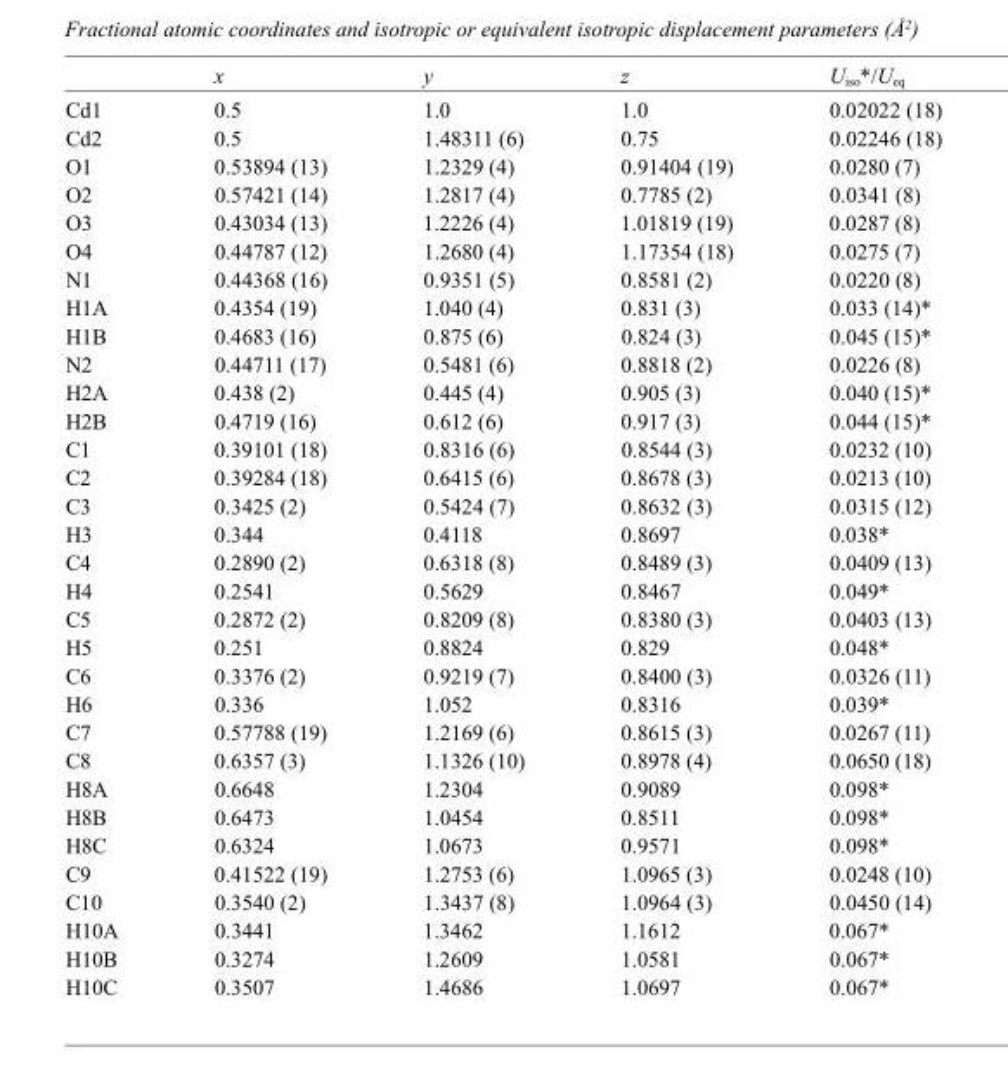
<table><thead><tr><td></td><td>x</td><td>y</td><td>z</td><td>U<sub>iso</sub>*/U<sub>eq</sub></td></tr></thead><tbody><tr><td>Cd1</td><td>0.5</td><td>1.0</td><td>1.0</td><td>0.02022 (18)</td></tr><tr><td>Cd2</td><td>0.5</td><td>1.48311 (6)</td><td>0.75</td><td>0.02246 (18)</td></tr><tr><td>O1</td><td>0.53894 (13)</td><td>1.2329 (4)</td><td>0.91404 (19)</td><td>0.0280 (7)</td></tr><tr><td>O2</td><td>0.57421 (14)</td><td>1.2817 (4)</td><td>0.7785 (2)</td><td>0.0341 (8)</td></tr><tr><td>O3</td><td>0.43034 (13)</td><td>1.2226 (4)</td><td>1.01819 (19)</td><td>0.0287 (8)</td></tr><tr><td>O4</td><td>0.44787 (12)</td><td>1.2680 (4)</td><td>1.17354 (18)</td><td>0.0275 (7)</td></tr><tr><td>N1</td><td>0.44368 (16)</td><td>0.9351 (5)</td><td>0.8581 (2)</td><td>0.0220 (8)</td></tr><tr><td>H1A</td><td>0.4354 (19)</td><td>1.040 (4)</td><td>0.831 (3)</td><td>0.033 (14)*</td></tr><tr><td>H1B</td><td>0.4683 (16)</td><td>0.875 (6)</td><td>0.824 (3)</td><td>0.045 (15)*</td></tr><tr><td>N2</td><td>0.44711 (17)</td><td>0.5481 (6)</td><td>0.8818 (2)</td><td>0.0226 (8)</td></tr><tr><td>H2A</td><td>0.438 (2)</td><td>0.445 (4)</td><td>0.905 (3)</td><td>0.040 (15)*</td></tr><tr><td>H2B</td><td>0.4719 (16)</td><td>0.612 (6)</td><td>0.917 (3)</td><td>0.044 (15)*</td></tr><tr><td>C1</td><td>0.39101 (18)</td><td>0.8316 (6)</td><td>0.8544 (3)</td><td>0.0232 (10)</td></tr><tr><td>C2</td><td>0.39284 (18)</td><td>0.6415 (6)</td><td>0.8678 (3)</td><td>0.0213 (10)</td></tr><tr><td>C3</td><td>0.3425 (2)</td><td>0.5424 (7)</td><td>0.8632 (3)</td><td>0.0315 (12)</td></tr><tr><td>H3</td><td>0.344</td><td>0.4118</td><td>0.8697</td><td>0.038*</td></tr><tr><td>C4</td><td>0.2890 (2)</td><td>0.6318 (8)</td><td>0.8489 (3)</td><td>0.0409 (13)</td></tr><tr><td>H4</td><td>0.2541</td><td>0.5629</td><td>0.8467</td><td>0.049*</td></tr><tr><td>C5</td><td>0.2872 (2)</td><td>0.8209 (8)</td><td>0.8380 (3)</td><td>0.0403 (13)</td></tr><tr><td>H5</td><td>0.251</td><td>0.8824</td><td>0.829</td><td>0.048*</td></tr><tr><td>C6</td><td>0.3376 (2)</td><td>0.9219 (7)</td><td>0.8400 (3)</td><td>0.0326 (11)</td></tr><tr><td>H6</td><td>0.336</td><td>1.052</td><td>0.8316</td><td>0.039*</td></tr><tr><td>C7</td><td>0.57788 (19)</td><td>1.2169 (6)</td><td>0.8615 (3)</td><td>0.0267 (11)</td></tr><tr><td>C8</td><td>0.6357 (3)</td><td>1.1326 (10)</td><td>0.8978 (4)</td><td>0.0650 (18)</td></tr><tr><td>H8A</td><td>0.6648</td><td>1.2304</td><td>0.9089</td><td>0.098*</td></tr><tr><td>H8B</td><td>0.6473</td><td>1.0454</td><td>0.8511</td><td>0.098*</td></tr><tr><td>H8C</td><td>0.6324</td><td>1.0673</td><td>0.9571</td><td>0.098*</td></tr><tr><td>C9</td><td>0.41522 (19)</td><td>1.2753 (6)</td><td>1.0965 (3)</td><td>0.0248 (10)</td></tr><tr><td>C10</td><td>0.3540 (2)</td><td>1.3437 (8)</td><td>1.0964 (3)</td><td>0.0450 (14)</td></tr><tr><td>H10A</td><td>0.3441</td><td>1.3462</td><td>1.1612</td><td>0.067*</td></tr><tr><td>H10B</td><td>0.3274</td><td>1.2609</td><td>1.0581</td><td>0.067*</td></tr><tr><td>H10C</td><td>0.3507</td><td>1.4686</td><td>1.0697</td><td>0.067*</td></tr></tbody></table>